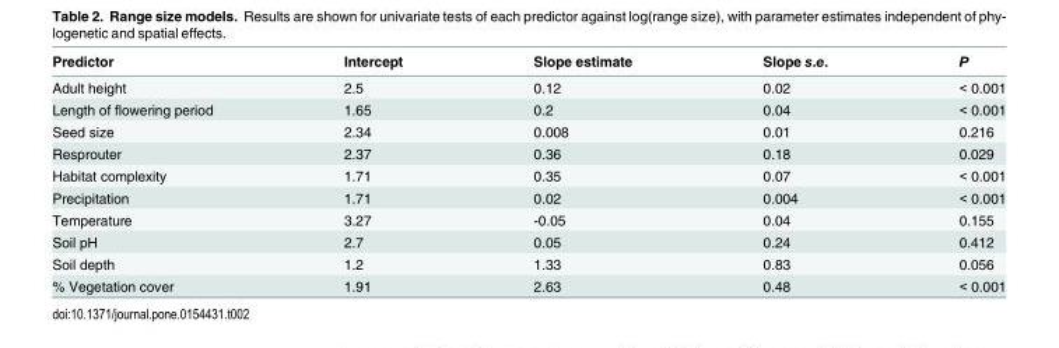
<table><thead><tr><td>Predictor</td><td>Intercept</td><td>Slope estimate</td><td>Slope s.e.</td><td>P</td></tr></thead><tbody><tr><td>Adult height</td><td>2.5</td><td>0.12</td><td>0.02</td><td>&lt; 0.001</td></tr><tr><td>Length of flowering period</td><td>1.65</td><td>0.2</td><td>0.04</td><td>&lt; 0.001</td></tr><tr><td>Seed size</td><td>2.34</td><td>0.008</td><td>0.01</td><td>0.216</td></tr><tr><td>Resprouter</td><td>2.37</td><td>0.36</td><td>0.18</td><td>0.029</td></tr><tr><td>Habitat complexity</td><td>1.71</td><td>0.35</td><td>0.07</td><td>&lt; 0.001</td></tr><tr><td>Precipitation</td><td>1.71</td><td>0.02</td><td>0.004</td><td>&lt; 0.001</td></tr><tr><td>Temperature</td><td>3.27</td><td>-0.05</td><td>0.04</td><td>0.155</td></tr><tr><td>Soil pH</td><td>2.7</td><td>0.05</td><td>0.24</td><td>0.412</td></tr><tr><td>Soil depth</td><td>1.2</td><td>1.33</td><td>0.83</td><td>0.056</td></tr><tr><td>% Vegetation cover</td><td>1.91</td><td>2.63</td><td>0.48</td><td>&lt; 0.001</td></tr></tbody></table>